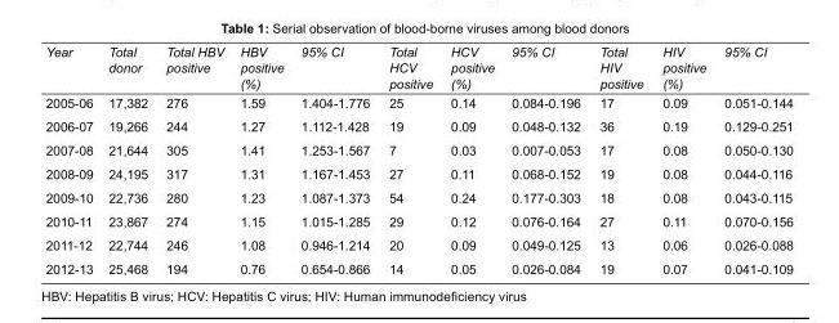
<table><tbody><tr><td>Year</td><td>Total donor</td><td>Total HBV positive</td><td>HBV positive (%)</td><td>95% CI</td><td>Total HCV positive</td><td>HCV positive (%)</td><td>95% CI</td><td>Total HIV positive</td><td>HIV positive (%)</td><td>95% CI</td></tr><tr><td>2005-06</td><td>17,382</td><td>276</td><td>1.59</td><td>1.404-1.776</td><td>25</td><td>0.14</td><td>0.084-0.196</td><td>17</td><td>0.09</td><td>0.051-0.144</td></tr><tr><td>2006-07</td><td>19,266</td><td>244</td><td>1.27</td><td>1.112-1.428</td><td>19</td><td>0.09</td><td>0.048-0.132</td><td>36</td><td>0.19</td><td>0.129-0.251</td></tr><tr><td>2007-08</td><td>21,644</td><td>305</td><td>1.41</td><td>1.253-1.567</td><td>7</td><td>0.03</td><td>0.007-0.053</td><td>17</td><td>0.08</td><td>0.050-0.130</td></tr><tr><td>2008-09</td><td>24,195</td><td>317</td><td>1.31</td><td>1.167-1.453</td><td>27</td><td>0.11</td><td>0.068-0.152</td><td>19</td><td>0.08</td><td>0.044-0.116</td></tr><tr><td>2009-10</td><td>22,736</td><td>280</td><td>1.23</td><td>1.087-1.373</td><td>54</td><td>0.24</td><td>0.177-0.303</td><td>18</td><td>0.08</td><td>0.043-0.115</td></tr><tr><td>2010-11</td><td>23,867</td><td>274</td><td>1.15</td><td>1.015-1.285</td><td>29</td><td>0.12</td><td>0.076-0.164</td><td>27</td><td>0.11</td><td>0.070-0.156</td></tr><tr><td>2011-12</td><td>22,744</td><td>246</td><td>1.08</td><td>0.946-1.214</td><td>20</td><td>0.09</td><td>0.049-0.125</td><td>13</td><td>0.06</td><td>0.026-0.088</td></tr><tr><td>2012-13</td><td>25,468</td><td>194</td><td>0.76</td><td>0.654-0.866</td><td>14</td><td>0.05</td><td>0.026-0.084</td><td>19</td><td>0.07</td><td>0.041-0.109</td></tr></tbody></table>